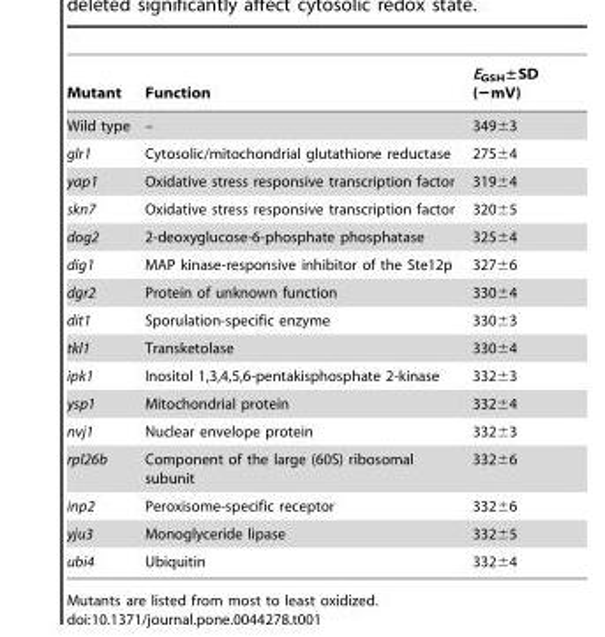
<table><thead><tr><td>Mutant</td><td>Function</td><td>E<sub>GSH</sub>±SD (−mV)</td></tr></thead><tbody><tr><td>Wild type</td><td>–</td><td>349±3</td></tr><tr><td>glr1</td><td>Cytosolic/mitochondrial glutathione reductase</td><td>275±4</td></tr><tr><td>yap1</td><td>Oxidative stress responsive transcription factor</td><td>319±4</td></tr><tr><td>skn7</td><td>Oxidative stress responsive transcription factor</td><td>320±5</td></tr><tr><td>dog2</td><td>2-deoxyglucose-6-phosphate phosphatase</td><td>325±4</td></tr><tr><td>dig1</td><td>MAP kinase-responsive inhibitor of the Ste12p</td><td>327±6</td></tr><tr><td>dgr2</td><td>Protein of unknown function</td><td>330±4</td></tr><tr><td>dit1</td><td>Sporulation-specific enzyme</td><td>330±3</td></tr><tr><td>tkl1</td><td>Transketolase</td><td>330±4</td></tr><tr><td>ipk1</td><td>Inositol 1,3,4,5,6-pentakisphosphate 2-kinase</td><td>332±3</td></tr><tr><td>ysp1</td><td>Mitochondrial protein</td><td>332±4</td></tr><tr><td>nvj1</td><td>Nuclear envelope protein</td><td>332±3</td></tr><tr><td>rpl26b</td><td>Component of the large (60S) ribosomal subunit</td><td>332±6</td></tr><tr><td>inp2</td><td>Peroxisome-specific receptor</td><td>332±6</td></tr><tr><td>yju3</td><td>Monoglyceride lipase</td><td>332±5</td></tr><tr><td>ubi4</td><td>Ubiquitin</td><td>332±4</td></tr></tbody></table>